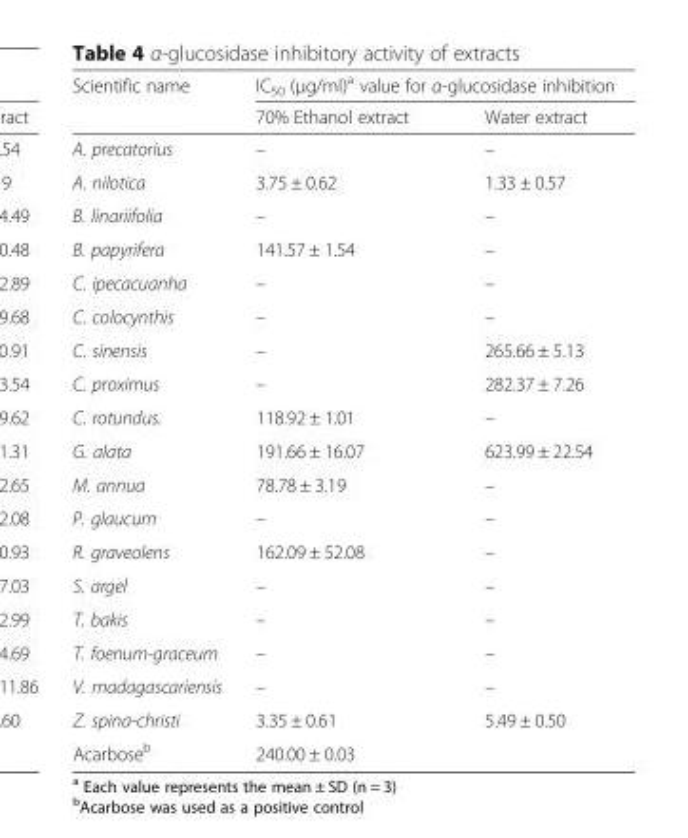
<table><thead><tr><td rowspan="2">Scientific name</td><td colspan="2">IC<sub>50</sub> (μg/ml)<sup>a</sup> value for α-glucosidase inhibition</td></tr><tr><td>70% Ethanol extract</td><td>Water extract</td></tr></thead><tbody><tr><td>A. precatorius</td><td>–</td><td>–</td></tr><tr><td>A. nilotica</td><td>3.75 ± 0.62</td><td>1.33 ± 0.57</td></tr><tr><td>B. linariifolia</td><td>–</td><td>–</td></tr><tr><td>B. papyrifera</td><td>141.57 ± 1.54</td><td>–</td></tr><tr><td>C. ipecacuanha</td><td>–</td><td>–</td></tr><tr><td>C. colocynthis</td><td>–</td><td>–</td></tr><tr><td>C. sinensis</td><td>–</td><td>265.66 ± 5.13</td></tr><tr><td>C. proximus</td><td>–</td><td>282.37 ± 7.26</td></tr><tr><td>C. rotundus.</td><td>118.92 ± 1.01</td><td>–</td></tr><tr><td>G. alata</td><td>191.66 ± 16.07</td><td>623.99 ± 22.54</td></tr><tr><td>M. annua</td><td>78.78 ± 3.19</td><td>–</td></tr><tr><td>P. glaucum</td><td>–</td><td>–</td></tr><tr><td>R. graveolens</td><td>162.09 ± 52.08</td><td>–</td></tr><tr><td>S. argel</td><td>–</td><td>–</td></tr><tr><td>T. bakis</td><td>–</td><td>–</td></tr><tr><td>T. foenum-graceum</td><td>–</td><td>–</td></tr><tr><td>V. madagascariensis</td><td>–</td><td>–</td></tr><tr><td>Z. spina-christi</td><td>3.35 ± 0.61</td><td>5.49 ± 0.50</td></tr><tr><td>Acarbose<sup>b</sup></td><td colspan="2">240.00 ± 0.03</td></tr></tbody></table>